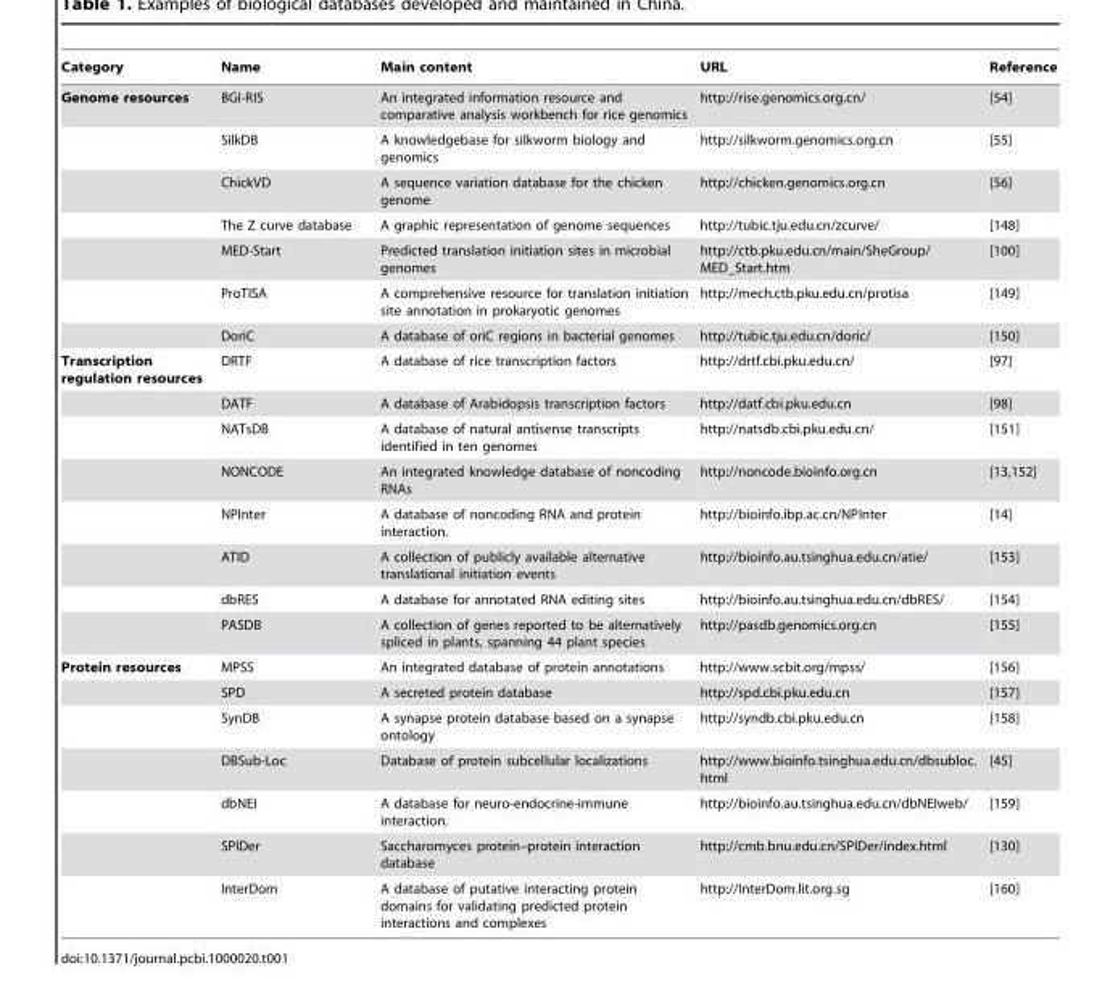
<table><thead><tr><td>Category</td><td>Name</td><td>Main content</td><td>URL</td><td>Reference</td></tr></thead><tbody><tr><td rowspan="7">Genome resources</td><td>BGI-RIS</td><td>An integrated information resource and comparative analysis workbench for rice genomics</td><td>http://rise.genomics.org.cn/</td><td>[54]</td></tr><tr><td>SilkDB</td><td>A knowledgebase for silkworm biology and genomics</td><td>http://silkworm.genomics.org.cn</td><td>[55]</td></tr><tr><td>ChickVD</td><td>A sequence variation database for the chicken genome</td><td>http://chicken.genomics.org.cn</td><td>[56]</td></tr><tr><td>The Z curve database</td><td>A graphic representation of genome sequences</td><td>http://tubic.tju.edu.cn/zcurve/</td><td>[148]</td></tr><tr><td>MED-Start</td><td>Predicted translation initiation sites in microbial genomes</td><td>http://ctb.pku.edu.cn/main/SheGroup/ MED_Start.htm</td><td>[100]</td></tr><tr><td>ProTISA</td><td>A comprehensive resource for translation initiation site annotation in prokaryotic genomes</td><td>http://mech.ctb.pku.edu.cn/protisa</td><td>[149]</td></tr><tr><td>DoriC</td><td>A database of oriC regions in bacterial genomes</td><td>http://tubic.tju.edu.cn/doric/</td><td>[150]</td></tr><tr><td rowspan="8">Transcription regulation resources</td><td>DRTF</td><td>A database of rice transcription factors</td><td>http://drtf.cbi.pku.edu.cn/</td><td>[97]</td></tr><tr><td>DATF</td><td>A database of Arabidopsis transcription factors</td><td>http://datf.cbi.pku.edu.cn</td><td>[98]</td></tr><tr><td>NATsDB</td><td>A database of natural antisense transcripts identified in ten genomes</td><td>http://natsdb.cbi.pku.edu.cn/</td><td>[151]</td></tr><tr><td>NONCODE</td><td>An integrated knowledge database of noncoding RNAs</td><td>http://noncode.bioinfo.org.cn</td><td>[13,152]</td></tr><tr><td>NPInter</td><td>A database of noncoding RNA and protein interaction.</td><td>http://bioinfo.ibp.ac.cn/NPInter</td><td>[14]</td></tr><tr><td>ATID</td><td>A collection of publicly available alternative translational initiation events</td><td>http://bioinfo.au.tsinghua.edu.cn/atie/</td><td>[153]</td></tr><tr><td>dbRES</td><td>A database for annotated RNA editing sites</td><td>http://bioinfo.au.tsinghua.edu.cn/dbRES/</td><td>[154]</td></tr><tr><td>PASDB</td><td>A collection of genes reported to be alternatively spliced in plants, spanning 44 plant species</td><td>http://pasdb.genomics.org.cn</td><td>[155]</td></tr><tr><td rowspan="7">Protein resources</td><td>MPSS</td><td>An integrated database of protein annotations</td><td>http://www.scbit.org/mpss/</td><td>[156]</td></tr><tr><td>SPD</td><td>A secreted protein database</td><td>http://spd.cbi.pku.edu.cn</td><td>[157]</td></tr><tr><td>SynDB</td><td>A synapse protein database based on a synapse ontology</td><td>http://syndb.cbi.pku.edu.cn</td><td>[158]</td></tr><tr><td>DBSub-Loc</td><td>Database of protein subcellular localizations</td><td>http://www.bioinfo.tsinghua.edu.cn/dbsubloc. html</td><td>[45]</td></tr><tr><td>dbNEI</td><td>A database for neuro-endocrine-immune interaction.</td><td>http://bioinfo.au.tsinghua.edu.cn/dbNEIweb/</td><td>[159]</td></tr><tr><td>SPIDer</td><td>Saccharomyces protein–protein interaction database</td><td>http://cmb.bnu.edu.cn/SPIDer/index.html</td><td>[130]</td></tr><tr><td>InterDom</td><td>A database of putative interacting protein domains for validating predicted protein interactions and complexes</td><td>http://InterDom.lit.org.sg</td><td>[160]</td></tr></tbody></table>